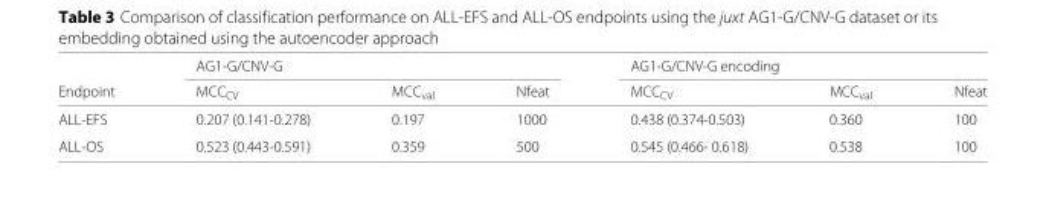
<table><thead><tr><td rowspan="2">Endpoint</td><td colspan="3">AG1-G/CNV-G</td><td colspan="3">AG1-G/CNV-G encoding</td></tr><tr><td>MCC<sub>CV</sub></td><td>MCC<sub>val</sub></td><td>Nfeat</td><td>MCC<sub>CV</sub></td><td>MCC<sub>val</sub></td><td>Nfeat</td></tr></thead><tbody><tr><td>ALL-EFS</td><td>0.207 (0.141-0.278)</td><td>0.197</td><td>1000</td><td>0.438 (0.374-0.503)</td><td>0.360</td><td>100</td></tr><tr><td>ALL-OS</td><td>0.523 (0.443-0.591)</td><td>0.359</td><td>500</td><td>0.545 (0.466- 0.618)</td><td>0.538</td><td>100</td></tr></tbody></table>